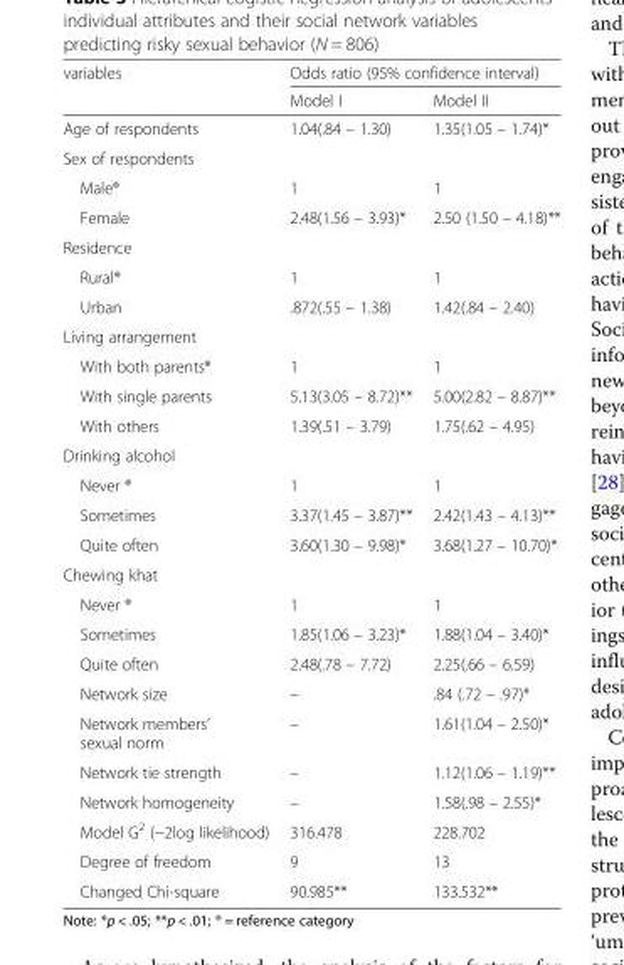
<table><thead><tr><td rowspan="2">variables</td><td colspan="2">Odds ratio (95% confidence interval)</td></tr><tr><td>Model I</td><td>Model II</td></tr></thead><tbody><tr><td>Age of respondents</td><td>1.04(.84 – 1.30)</td><td>1.35(1.05 – 1.74)*</td></tr><tr><td colspan="3">Sex of respondents</td></tr><tr><td>Male®</td><td>1</td><td>1</td></tr><tr><td>Female</td><td>2.48(1.56 – 3.93)*</td><td>2.50 (1.50 – 4.18)**</td></tr><tr><td colspan="3">Residence</td></tr><tr><td>Rural®</td><td>1</td><td>1</td></tr><tr><td>Urban</td><td>.872(.55 – 1.38)</td><td>1.42(.84 – 2.40)</td></tr><tr><td colspan="3">Living arrangement</td></tr><tr><td>With both parents®</td><td>1</td><td>1</td></tr><tr><td>With single parents</td><td>5.13(3.05 – 8.72)**</td><td>5.00(2.82 – 8.87)**</td></tr><tr><td>With others</td><td>1.39(.51 – 3.79)</td><td>1.75(.62 – 4.95)</td></tr><tr><td colspan="3">Drinking alcohol</td></tr><tr><td>Never ®</td><td>1</td><td>1</td></tr><tr><td>Sometimes</td><td>3.37(1.45 – 3.87)**</td><td>2.42(1.43 – 4.13)**</td></tr><tr><td>Quite often</td><td>3.60(1.30 – 9.98)*</td><td>3.68(1.27 – 10.70)*</td></tr><tr><td colspan="3">Chewing khat</td></tr><tr><td>Never ®</td><td>1</td><td>1</td></tr><tr><td>Sometimes</td><td>1.85(1.06 – 3.23)*</td><td>1.88(1.04 – 3.40)*</td></tr><tr><td>Quite often</td><td>2.48(.78 – 7.72)</td><td>2.25(.66 – 6.59)</td></tr><tr><td>Network size</td><td>–</td><td>.84 (.72 – .97)*</td></tr><tr><td>Network members’ sexual norm</td><td>–</td><td>1.61(1.04 – 2.50)*</td></tr><tr><td>Network tie strength</td><td>–</td><td>1.12(1.06 – 1.19)**</td></tr><tr><td>Network homogeneity</td><td>–</td><td>1.58(.98 – 2.55)*</td></tr><tr><td>Model G<sup>2</sup> (−2log likelihood)</td><td>316.478</td><td>228.702</td></tr><tr><td>Degree of freedom</td><td>9</td><td>13</td></tr><tr><td>Changed Chi-square</td><td>90.985**</td><td>133.532**</td></tr></tbody></table>